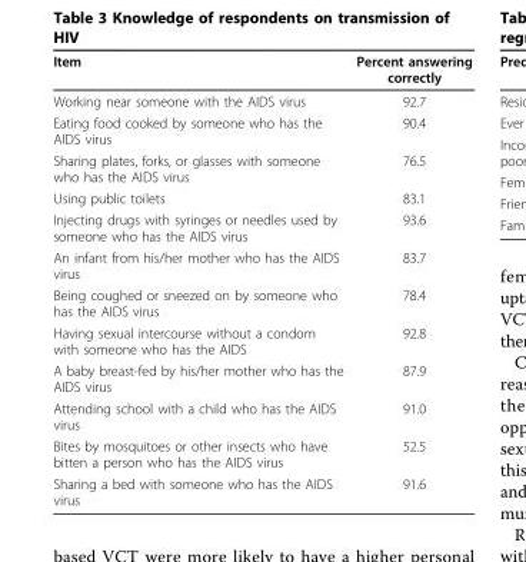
<table><thead><tr><td>Item</td><td>Percent answering correctly</td></tr></thead><tbody><tr><td>Working near someone with the AIDS virus</td><td>92.7</td></tr><tr><td>Eating food cooked by someone who has the AIDS virus</td><td>90.4</td></tr><tr><td>Sharing plates, forks, or glasses with someone who has the AIDS virus</td><td>76.5</td></tr><tr><td>Using public toilets</td><td>83.1</td></tr><tr><td>Injecting drugs with syringes or needles used by someone who has the AIDS virus</td><td>93.6</td></tr><tr><td>An infant from his/her mother who has the AIDS virus</td><td>83.7</td></tr><tr><td>Being coughed or sneezed on by someone who has the AIDS virus</td><td>78.4</td></tr><tr><td>Having sexual intercourse without a condom with someone who has the AIDS</td><td>92.8</td></tr><tr><td>A baby breast-fed by his/her mother who has the AIDS virus</td><td>87.9</td></tr><tr><td>Attending school with a child who has the AIDS virus</td><td>91.0</td></tr><tr><td>Bites by mosquitoes or other insects who have bitten a person who has the AIDS virus</td><td>52.5</td></tr><tr><td>Sharing a bed with someone who has the AIDS virus</td><td>91.6</td></tr></tbody></table>